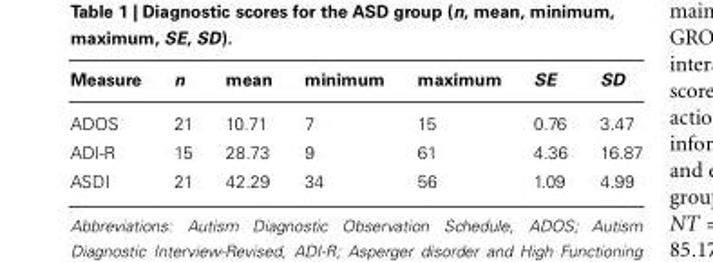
<table><thead><tr><td>Measure</td><td>n</td><td>mean</td><td>minimum</td><td>maximum</td><td>SE</td><td>SD</td></tr></thead><tbody><tr><td>ADOS</td><td>21</td><td>10.71</td><td>7</td><td>15</td><td>0.76</td><td>3.47</td></tr><tr><td>ADI-R</td><td>15</td><td>28.73</td><td>9</td><td>61</td><td>4.36</td><td>16.87</td></tr><tr><td>ASDI</td><td>21</td><td>42.29</td><td>34</td><td>56</td><td>1.09</td><td>4.99</td></tr></tbody></table>